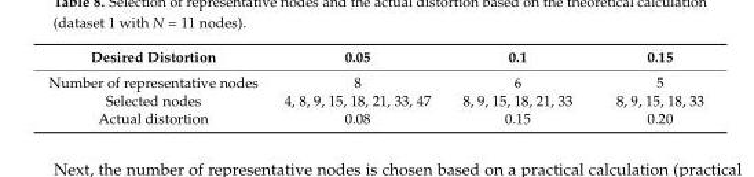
<table><thead><tr><td>Desired Distortion</td><td>0.05</td><td>0.1</td><td>0.15</td></tr></thead><tbody><tr><td>Number of representative nodes</td><td>8</td><td>6</td><td>5</td></tr><tr><td>Selected nodes</td><td>4, 8, 9, 15, 18, 21, 33, 47</td><td>8, 9, 15, 18, 21, 33</td><td>8, 9, 15, 18, 33</td></tr><tr><td>Actual distortion</td><td>0.08</td><td>0.15</td><td>0.20</td></tr></tbody></table>